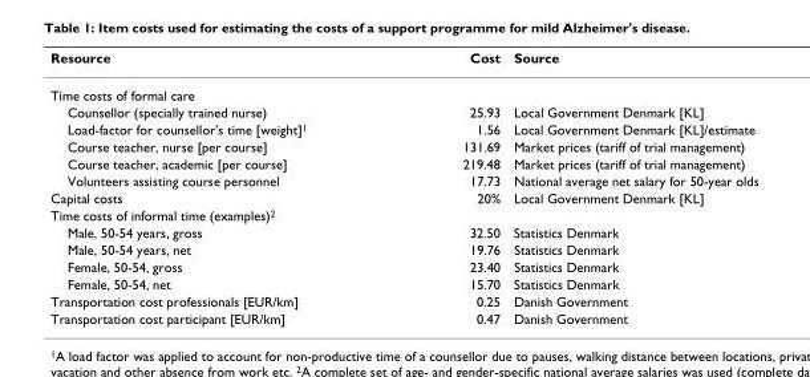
<table><thead><tr><td>Resource</td><td>Cost</td><td>Source</td></tr></thead><tbody><tr><td colspan="3">Time costs of formal care</td></tr><tr><td>Counsellor (specially trained nurse)</td><td>25.93</td><td>Local Government Denmark [KL]</td></tr><tr><td>Load-factor for counsellor&#x27;s time [weight]<sup>1</sup></td><td>1.56</td><td>Local Government Denmark [KL]/estimate</td></tr><tr><td>Course teacher, nurse [per course]</td><td>131.69</td><td>Market prices (tariff of trial management)</td></tr><tr><td>Course teacher, academic [per course]</td><td>219.48</td><td>Market prices (tariff of trial management)</td></tr><tr><td>Volunteers assisting course personnel</td><td>17.73</td><td>National average net salary for 50-year olds</td></tr><tr><td>Capital costs</td><td>20%</td><td>Local Government Denmark [KL]</td></tr><tr><td colspan="3">Time costs of informal time (examples)<sup>2</sup></td></tr><tr><td>Male, 50-54 years, gross</td><td>32.50</td><td>Statistics Denmark</td></tr><tr><td>Male, 50-54 years, net</td><td>19.76</td><td>Statistics Denmark</td></tr><tr><td>Female, 50-54, gross</td><td>23.40</td><td>Statistics Denmark</td></tr><tr><td>Female, 50-54, net</td><td>15.70</td><td>Statistics Denmark</td></tr><tr><td>Transportation cost professionals [EUR/km]</td><td>0.25</td><td>Danish Government</td></tr><tr><td>Transportation cost participant [EUR/km]</td><td>0.47</td><td>Danish Government</td></tr></tbody></table>